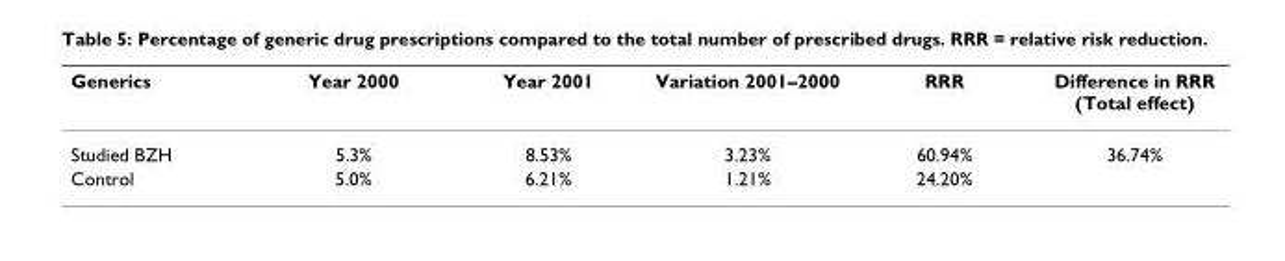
<table><thead><tr><td>Generics</td><td>Year 2000</td><td>Year 2001</td><td>Variation 2001–2000</td><td>RRR</td><td>Difference in RRR (Total effect)</td></tr></thead><tbody><tr><td>Studied BZH</td><td>5.3%</td><td>8.53%</td><td>3.23%</td><td>60.94%</td><td>36.74%</td></tr><tr><td>Control</td><td>5.0%</td><td>6.21%</td><td>1.21%</td><td>24.20%</td><td></td></tr></tbody></table>